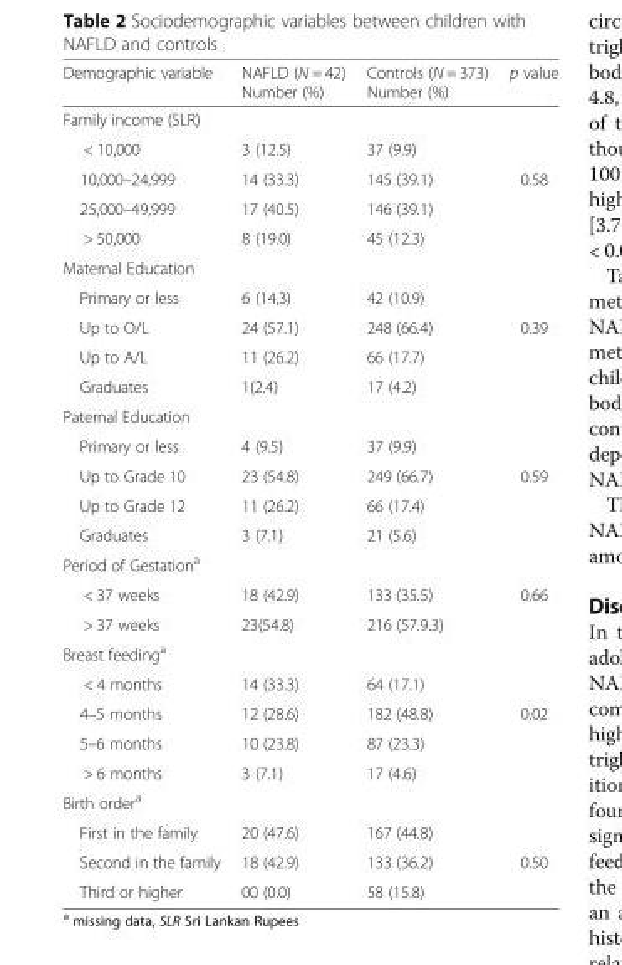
<table><thead><tr><td>Demographic variable</td><td>NAFLD (N = 42) Number (%)</td><td>Controls (N = 373) Number (%)</td><td>p value</td></tr></thead><tbody><tr><td colspan="4">Family income (SLR)</td></tr><tr><td>&lt; 10,000</td><td>3 (12.5)</td><td>37 (9.9)</td><td></td></tr><tr><td>10,000–24,999</td><td>14 (33.3)</td><td>145 (39.1)</td><td>0.58</td></tr><tr><td>25,000–49,999</td><td>17 (40.5)</td><td>146 (39.1)</td><td></td></tr><tr><td>&gt; 50,000</td><td>8 (19.0)</td><td>45 (12.3)</td><td></td></tr><tr><td colspan="4">Maternal Education</td></tr><tr><td>Primary or less</td><td>6 (14,3)</td><td>42 (10.9)</td><td></td></tr><tr><td>Up to O/L</td><td>24 (57.1)</td><td>248 (66.4)</td><td>0.39</td></tr><tr><td>Up to A/L</td><td>11 (26.2)</td><td>66 (17.7)</td><td></td></tr><tr><td>Graduates</td><td>1(2.4)</td><td>17 (4.2)</td><td></td></tr><tr><td colspan="4">Paternal Education</td></tr><tr><td>Primary or less</td><td>4 (9.5)</td><td>37 (9.9)</td><td></td></tr><tr><td>Up to Grade 10</td><td>23 (54.8)</td><td>249 (66.7)</td><td>0.59</td></tr><tr><td>Up to Grade 12</td><td>11 (26.2)</td><td>66 (17.4)</td><td></td></tr><tr><td>Graduates</td><td>3 (7.1)</td><td>21 (5.6)</td><td></td></tr><tr><td colspan="4">Period of Gestation<sup>a</sup></td></tr><tr><td>&lt; 37 weeks</td><td>18 (42.9)</td><td>133 (35.5)</td><td>0.66</td></tr><tr><td>&gt; 37 weeks</td><td>23(54.8)</td><td>216 (57.9.3)</td><td></td></tr><tr><td colspan="4">Breast feeding<sup>a</sup></td></tr><tr><td>&lt; 4 months</td><td>14 (33.3)</td><td>64 (17.1)</td><td></td></tr><tr><td>4–5 months</td><td>12 (28.6)</td><td>182 (48.8)</td><td>0.02</td></tr><tr><td>5–6 months</td><td>10 (23.8)</td><td>87 (23.3)</td><td></td></tr><tr><td>&gt; 6 months</td><td>3 (7.1)</td><td>17 (4.6)</td><td></td></tr><tr><td colspan="4">Birth order<sup>a</sup></td></tr><tr><td>First in the family</td><td>20 (47.6)</td><td>167 (44.8)</td><td></td></tr><tr><td>Second in the family</td><td>18 (42.9)</td><td>133 (36.2)</td><td>0.50</td></tr><tr><td>Third or higher</td><td>00 (0.0)</td><td>58 (15.8)</td><td></td></tr></tbody></table>